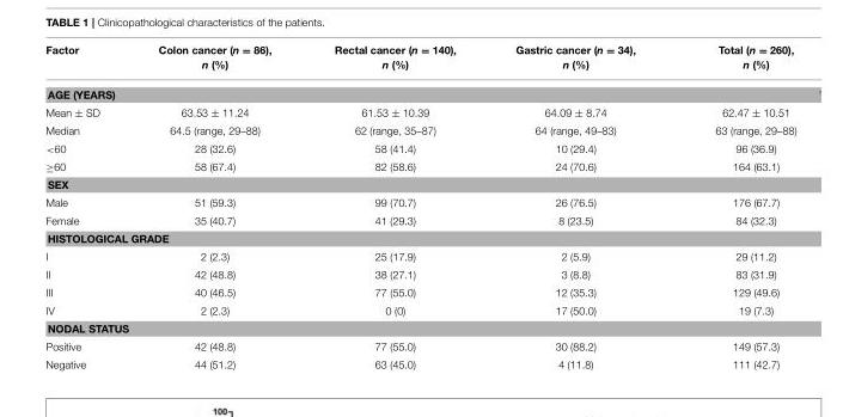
<table><thead><tr><td>Factor</td><td>Colon cancer (n = 86), n (%)</td><td>Rectal cancer (n = 140), n (%)</td><td>Gastric cancer (n = 34), n (%)</td><td>Total (n = 260), n (%)</td></tr></thead><tbody><tr><td colspan="5">AGE (YEARS)</td></tr><tr><td>Mean ± SD</td><td>63.53 ± 11.24</td><td>61.53 ± 10.39</td><td>64.09 ± 8.74</td><td>62.47 ± 10.51</td></tr><tr><td>Median</td><td>64.5 (range, 29–88)</td><td>62 (range, 35–87)</td><td>64 (range, 49–83)</td><td>63 (range, 29–88)</td></tr><tr><td>&lt;60</td><td>28 (32.6)</td><td>58 (41.4)</td><td>10 (29.4)</td><td>96 (36.9)</td></tr><tr><td>≥60</td><td>58 (67.4)</td><td>82 (58.6)</td><td>24 (70.6)</td><td>164 (63.1)</td></tr><tr><td colspan="5">SEX</td></tr><tr><td>Male</td><td>51 (59.3)</td><td>99 (70.7)</td><td>26 (76.5)</td><td>176 (67.7)</td></tr><tr><td>Female</td><td>35 (40.7)</td><td>41 (29.3)</td><td>8 (23.5)</td><td>84 (32.3)</td></tr><tr><td colspan="5">HISTOLOGICAL GRADE</td></tr><tr><td>I</td><td>2 (2.3)</td><td>25 (17.9)</td><td>2 (5.9)</td><td>29 (11.2)</td></tr><tr><td>II</td><td>42 (48.8)</td><td>38 (27.1)</td><td>3 (8.8)</td><td>83 (31.9)</td></tr><tr><td>III</td><td>40 (46.5)</td><td>77 (55.0)</td><td>12 (35.3)</td><td>129 (49.6)</td></tr><tr><td>IV</td><td>2 (2.3)</td><td>0 (0)</td><td>17 (50.0)</td><td>19 (7.3)</td></tr><tr><td colspan="5">NODAL STATUS</td></tr><tr><td>Positive</td><td>42 (48.8)</td><td>77 (55.0)</td><td>30 (88.2)</td><td>149 (57.3)</td></tr><tr><td>Negative</td><td>44 (51.2)</td><td>63 (45.0)</td><td>4 (11.8)</td><td>111 (42.7)</td></tr></tbody></table>